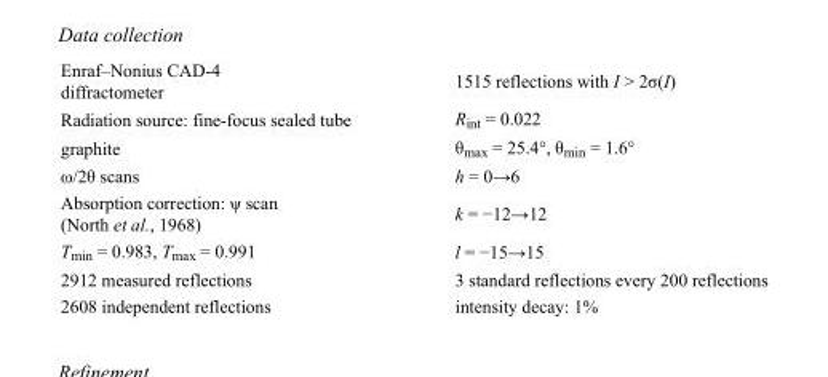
<table><tbody><tr><td>Enraf–Nonius CAD-4 diffractometer</td><td>1515 reflections with I &gt; 2σ(I)</td></tr><tr><td>Radiation source: fine-focus sealed tube</td><td>R<sub>int</sub> = 0.022</td></tr><tr><td>graphite</td><td>θ<sub>max</sub> = 25.4°, θ<sub>min</sub> = 1.6°</td></tr><tr><td>ω/2θ scans</td><td>h = 0→6</td></tr><tr><td>Absorption correction: ψ scan (North et al., 1968)</td><td>k = −12→12</td></tr><tr><td>T<sub>min</sub> = 0.983, T<sub>max</sub> = 0.991</td><td>l = −15→15</td></tr><tr><td>2912 measured reflections</td><td>3 standard reflections every 200 reflections</td></tr><tr><td>2608 independent reflections</td><td>intensity decay: 1%</td></tr></tbody></table>